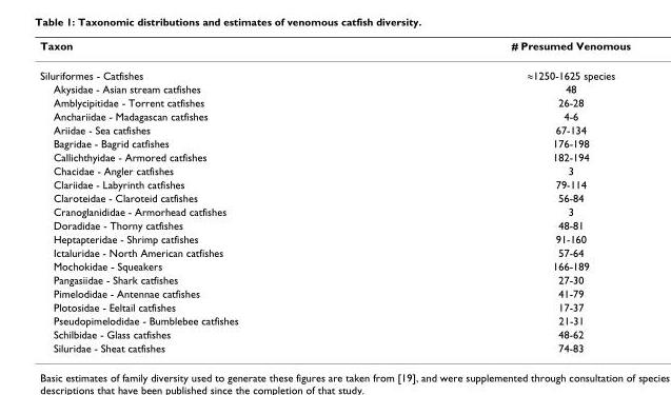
<table><thead><tr><td>Taxon</td><td># Presumed Venomous</td></tr></thead><tbody><tr><td>Siluriformes - Catfishes</td><td>≈1250-1625 species</td></tr><tr><td>Akysidae - Asian stream catfishes</td><td>48</td></tr><tr><td>Amblycipitidae - Torrent catfishes</td><td>26-28</td></tr><tr><td>Anchariidae - Madagascan catfishes</td><td>4-6</td></tr><tr><td>Ariidae - Sea catfishes</td><td>67-134</td></tr><tr><td>Bagridae - Bagrid catfishes</td><td>176-198</td></tr><tr><td>Callichthyidae - Armored catfishes</td><td>182-194</td></tr><tr><td>Chacidae - Angler catfishes</td><td>3</td></tr><tr><td>Clariidae - Labyrinth catfishes</td><td>79-114</td></tr><tr><td>Claroteidae - Claroteid catfishes</td><td>56-84</td></tr><tr><td>Cranoglanididae - Armorhead catfishes</td><td>3</td></tr><tr><td>Doradidae - Thorny catfishes</td><td>48-81</td></tr><tr><td>Heptapteridae - Shrimp catfishes</td><td>91-160</td></tr><tr><td>Ictaluridae - North American catfishes</td><td>57-64</td></tr><tr><td>Mochokidae - Squeakers</td><td>166-189</td></tr><tr><td>Pangasiidae - Shark catfishes</td><td>27-30</td></tr><tr><td>Pimelodidae - Antennae catfishes</td><td>41-79</td></tr><tr><td>Plotosidae - Eeltail catfishes</td><td>17-37</td></tr><tr><td>Pseudopimelodidae - Bumblebee catfishes</td><td>21-31</td></tr><tr><td>Schilbidae - Glass catfishes</td><td>48-62</td></tr><tr><td>Siluridae - Sheat catfishes</td><td>74-83</td></tr></tbody></table>